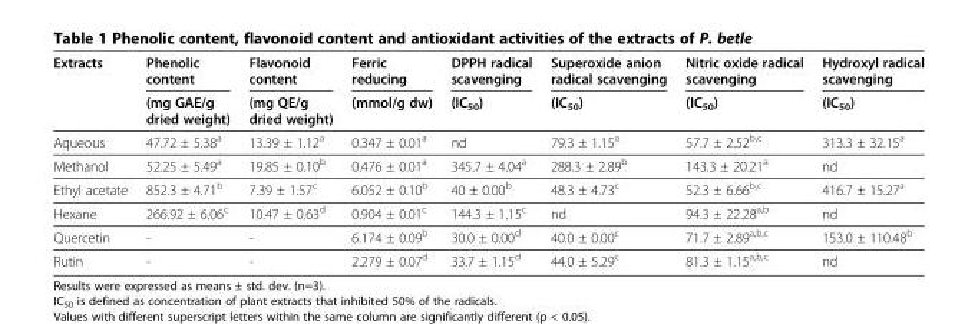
<table><thead><tr><td rowspan="2">Extracts</td><td rowspan="2">Phenolic content (mg GAE/g dried weight)</td><td rowspan="2">Flavonoid content (mg QE/g dried weight)</td><td rowspan="2">Ferric reducing (mmol/g dw)</td><td rowspan="2">DPPH radical scavenging (IC<sub>50</sub>)</td><td rowspan="2">Superoxide anion radical scavenging (IC<sub>50</sub>)</td><td rowspan="2">Nitric oxide radical scavenging (IC<sub>50</sub>)</td><td rowspan="2">Hydroxyl radical scavenging (IC<sub>50</sub>)</td></tr><tr></tr></thead><tbody><tr><td>Aqueous</td><td>47.72 ± 5.38<sup>a</sup></td><td>13.39 ± 1.12<sup>a</sup></td><td>0.347 ± 0.01<sup>a</sup></td><td>nd</td><td>79.3 ± 1.15<sup>a</sup></td><td>57.7 ± 2.52<sup>b,c</sup></td><td>313.3 ± 32.15<sup>a</sup></td></tr><tr><td>Methanol</td><td>52.25 ± 5.49<sup>a</sup></td><td>19.85 ± 0.10<sup>b</sup></td><td>0.476 ± 0.01<sup>a</sup></td><td>345.7 ± 4.04<sup>a</sup></td><td>288.3 ± 2.89<sup>b</sup></td><td>143.3 ± 20.21<sup>a</sup></td><td>nd</td></tr><tr><td>Ethyl acetate</td><td>852.3 ± 4.71<sup>b</sup></td><td>7.39 ± 1.57<sup>c</sup></td><td>6.052 ± 0.10<sup>b</sup></td><td>40 ± 0.00<sup>b</sup></td><td>48.3 ± 4.73<sup>c</sup></td><td>52.3 ± 6.66<sup>b,c</sup></td><td>416.7 ± 15.27<sup>a</sup></td></tr><tr><td>Hexane</td><td>266.92 ± 6.06<sup>c</sup></td><td>10.47 ± 0.63<sup>d</sup></td><td>0.904 ± 0.01<sup>c</sup></td><td>144.3 ± 1.15<sup>c</sup></td><td>nd</td><td>94.3 ± 22.28<sup>a,b</sup></td><td>nd</td></tr><tr><td>Quercetin</td><td>-</td><td>-</td><td>6.174 ± 0.09<sup>b</sup></td><td>30.0 ± 0.00<sup>d</sup></td><td>40.0 ± 0.00<sup>c</sup></td><td>71.7 ± 2.89<sup>a,b,c</sup></td><td>153.0 ± 110.48<sup>b</sup></td></tr><tr><td>Rutin</td><td>-</td><td>-</td><td>2.279 ± 0.07<sup>d</sup></td><td>33.7 ± 1.15<sup>d</sup></td><td>44.0 ± 5.29<sup>c</sup></td><td>81.3 ± 1.15<sup>a,b,c</sup></td><td>nd</td></tr></tbody></table>